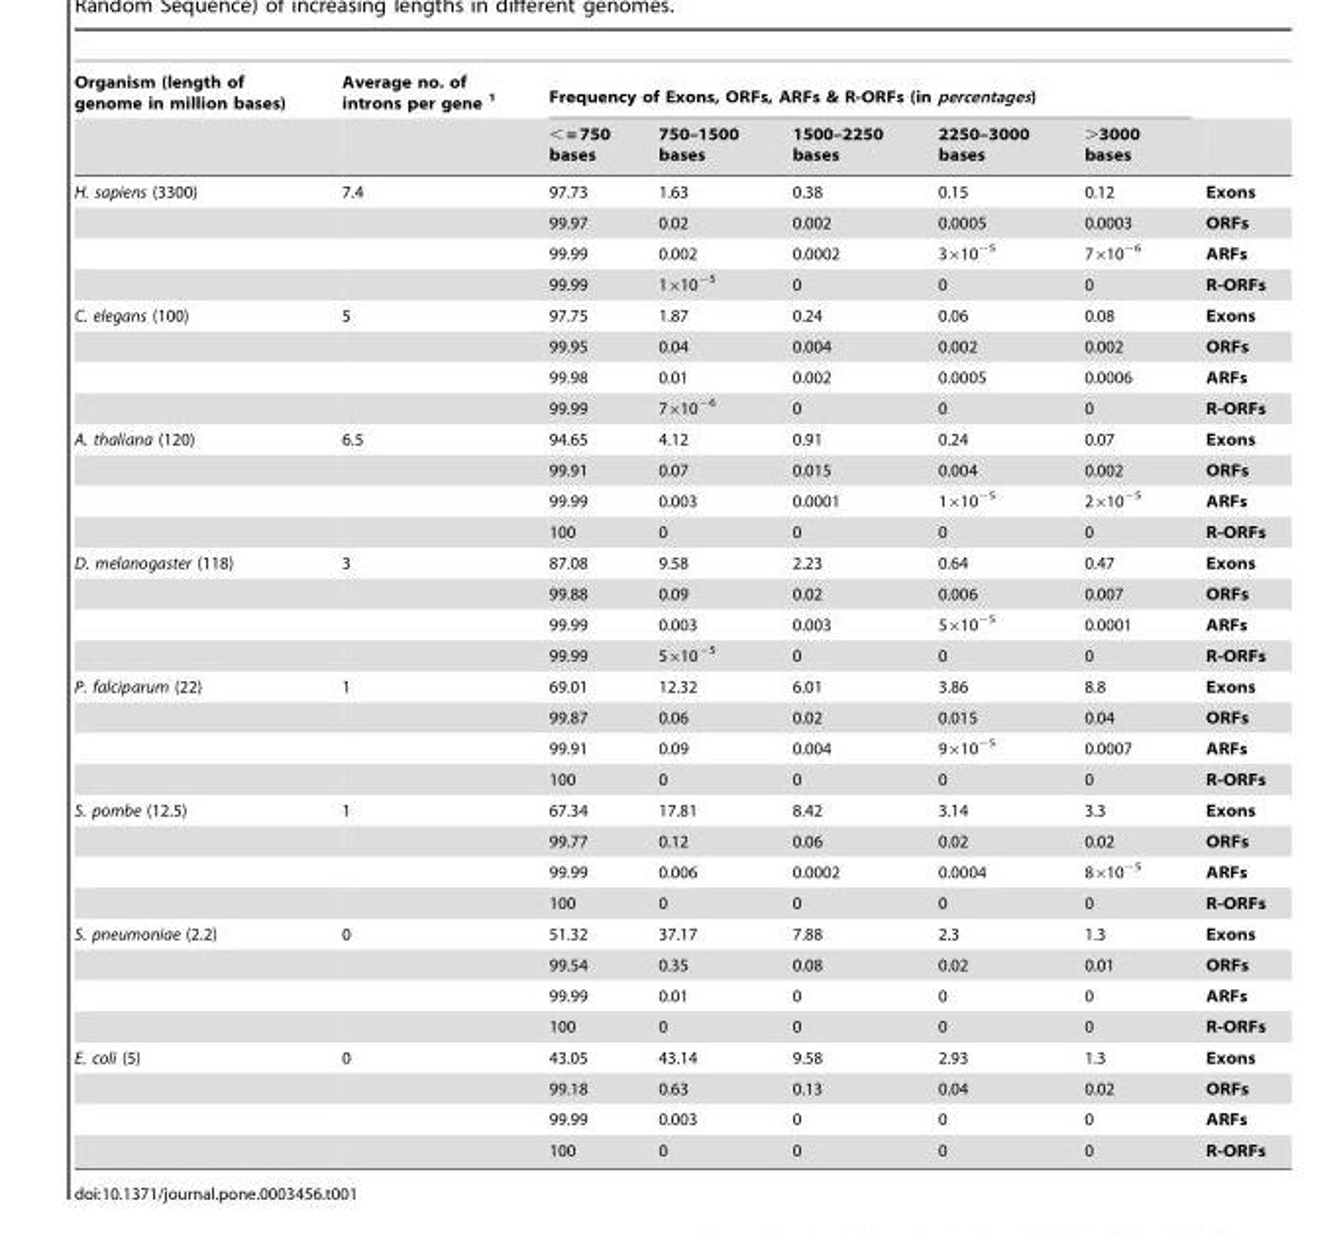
<table><thead><tr><td rowspan="2">Organism (length of genome in million bases)</td><td rowspan="2">Average no. of introns per gene <sup>1</sup></td><td colspan="5">Frequency of Exons, ORFs, ARFs &amp; R-ORFs (in percentages)</td><td rowspan="2"></td></tr><tr><td>&lt; = 750 bases</td><td>750–1500 bases</td><td>1500–2250 bases</td><td>2250–3000 bases</td><td>&gt;3000 bases</td></tr></thead><tbody><tr><td rowspan="4">H. sapiens (3300)</td><td>7.4</td><td>97.73</td><td>1.63</td><td>0.38</td><td>0.15</td><td>0.12</td><td>Exons</td></tr><tr><td></td><td>99.97</td><td>0.02</td><td>0.002</td><td>0.0005</td><td>0.0003</td><td>ORFs</td></tr><tr><td></td><td>99.99</td><td>0.002</td><td>0.0002</td><td>3×10<sup>−5</sup></td><td>7×10<sup>−6</sup></td><td>ARFs</td></tr><tr><td></td><td>99.99</td><td>1×10<sup>−5</sup></td><td>0</td><td>0</td><td>0</td><td>R-ORFs</td></tr><tr><td rowspan="4">C. elegans (100)</td><td>5</td><td>97.75</td><td>1.87</td><td>0.24</td><td>0.06</td><td>0.08</td><td>Exons</td></tr><tr><td></td><td>99.95</td><td>0.04</td><td>0.004</td><td>0.002</td><td>0.002</td><td>ORFs</td></tr><tr><td></td><td>99.98</td><td>0.01</td><td>0.002</td><td>0.0005</td><td>0.0006</td><td>ARFs</td></tr><tr><td></td><td>99.99</td><td>7×10<sup>−6</sup></td><td>0</td><td>0</td><td>0</td><td>R-ORFs</td></tr><tr><td rowspan="4">A. thaliana (120)</td><td>6.5</td><td>94.65</td><td>4.12</td><td>0.91</td><td>0.24</td><td>0.07</td><td>Exons</td></tr><tr><td></td><td>99.91</td><td>0.07</td><td>0.015</td><td>0.004</td><td>0.002</td><td>ORFs</td></tr><tr><td></td><td>99.99</td><td>0.003</td><td>0.0001</td><td>1×10<sup>−5</sup></td><td>2×10<sup>−5</sup></td><td>ARFs</td></tr><tr><td></td><td>100</td><td>0</td><td>0</td><td>0</td><td>0</td><td>R-ORFs</td></tr><tr><td rowspan="4">D. melanogaster (118)</td><td>3</td><td>87.08</td><td>9.58</td><td>2.23</td><td>0.64</td><td>0.47</td><td>Exons</td></tr><tr><td></td><td>99.88</td><td>0.09</td><td>0.02</td><td>0.006</td><td>0.007</td><td>ORFs</td></tr><tr><td></td><td>99.99</td><td>0.003</td><td>0.003</td><td>5×10<sup>−5</sup></td><td>0.0001</td><td>ARFs</td></tr><tr><td></td><td>99.99</td><td>5×10<sup>−5</sup></td><td>0</td><td>0</td><td>0</td><td>R-ORFs</td></tr><tr><td rowspan="4">P. falciparum (22)</td><td>1</td><td>69.01</td><td>12.32</td><td>6.01</td><td>3.86</td><td>8.8</td><td>Exons</td></tr><tr><td></td><td>99.87</td><td>0.06</td><td>0.02</td><td>0.015</td><td>0.04</td><td>ORFs</td></tr><tr><td></td><td>99.91</td><td>0.09</td><td>0.004</td><td>9×10<sup>−5</sup></td><td>0.0007</td><td>ARFs</td></tr><tr><td></td><td>100</td><td>0</td><td>0</td><td>0</td><td>0</td><td>R-ORFs</td></tr><tr><td rowspan="4">S. pombe (12.5)</td><td>1</td><td>67.34</td><td>17.81</td><td>8.42</td><td>3.14</td><td>3.3</td><td>Exons</td></tr><tr><td></td><td>99.77</td><td>0.12</td><td>0.06</td><td>0.02</td><td>0.02</td><td>ORFs</td></tr><tr><td></td><td>99.99</td><td>0.006</td><td>0.0002</td><td>0.0004</td><td>8×10<sup>−5</sup></td><td>ARFs</td></tr><tr><td></td><td>100</td><td>0</td><td>0</td><td>0</td><td>0</td><td>R-ORFs</td></tr><tr><td rowspan="4">S. pneumoniae (2.2)</td><td>0</td><td>51.32</td><td>37.17</td><td>7.88</td><td>2.3</td><td>1.3</td><td>Exons</td></tr><tr><td></td><td>99.54</td><td>0.35</td><td>0.08</td><td>0.02</td><td>0.01</td><td>ORFs</td></tr><tr><td></td><td>99.99</td><td>0.01</td><td>0</td><td>0</td><td>0</td><td>ARFs</td></tr><tr><td></td><td>100</td><td>0</td><td>0</td><td>0</td><td>0</td><td>R-ORFs</td></tr><tr><td rowspan="4">E. coli (5)</td><td>0</td><td>43.05</td><td>43.14</td><td>9.58</td><td>2.93</td><td>1.3</td><td>Exons</td></tr><tr><td></td><td>99.18</td><td>0.63</td><td>0.13</td><td>0.04</td><td>0.02</td><td>ORFs</td></tr><tr><td></td><td>99.99</td><td>0.003</td><td>0</td><td>0</td><td>0</td><td>ARFs</td></tr><tr><td></td><td>100</td><td>0</td><td>0</td><td>0</td><td>0</td><td>R-ORFs</td></tr></tbody></table>